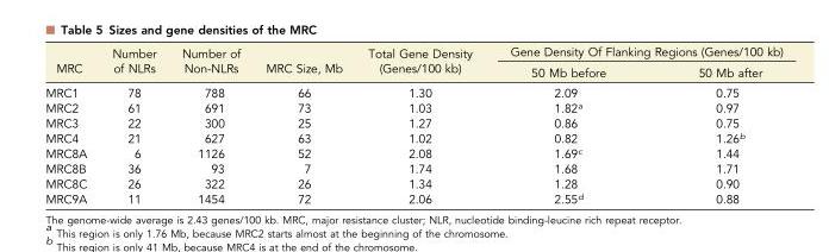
<table><thead><tr><td rowspan="2">MRC</td><td rowspan="2">Number of NLRs</td><td rowspan="2">Number of Non-NLRs</td><td rowspan="2">MRC Size, Mb</td><td rowspan="2">Total Gene Density (Genes/100 kb)</td><td colspan="2">Gene Density Of Flanking Regions (Genes/100 kb)</td></tr><tr><td>50 Mb before</td><td>50 Mb after</td></tr></thead><tbody><tr><td>MRC1</td><td>78</td><td>788</td><td>66</td><td>1.30</td><td>2.09</td><td>0.75</td></tr><tr><td>MRC2</td><td>61</td><td>691</td><td>73</td><td>1.03</td><td>1.82<sup>a</sup></td><td>0.97</td></tr><tr><td>MRC3</td><td>22</td><td>300</td><td>25</td><td>1.27</td><td>0.86</td><td>0.75</td></tr><tr><td>MRC4</td><td>21</td><td>627</td><td>63</td><td>1.02</td><td>0.82</td><td>1.26<sup>b</sup></td></tr><tr><td>MRC8A</td><td>6</td><td>1126</td><td>52</td><td>2.08</td><td>1.69<sup>c</sup></td><td>1.44</td></tr><tr><td>MRC8B</td><td>36</td><td>93</td><td>7</td><td>1.74</td><td>1.68</td><td>1.71</td></tr><tr><td>MRC8C</td><td>26</td><td>322</td><td>26</td><td>1.34</td><td>1.28</td><td>0.90</td></tr><tr><td>MRC9A</td><td>11</td><td>1454</td><td>72</td><td>2.06</td><td>2.55<sup>d</sup></td><td>0.88</td></tr></tbody></table>